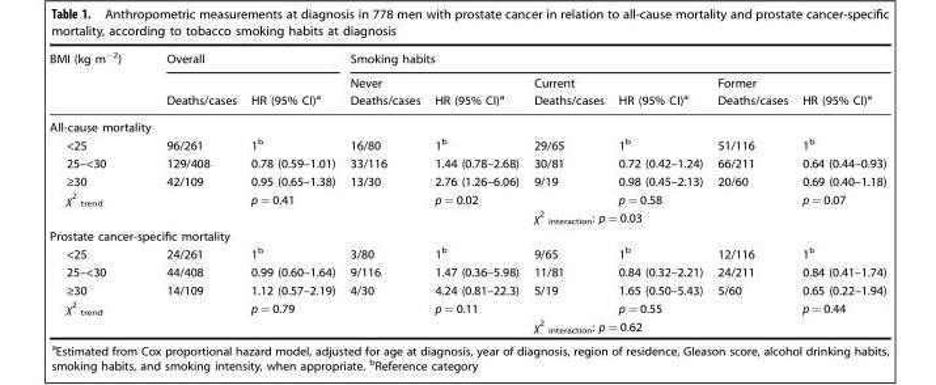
<table><thead><tr><td rowspan="3">BMI (kg m<sup>−2</sup>)</td><td colspan="2">Overall</td><td colspan="6">Smoking habits</td></tr><tr><td rowspan="2">Deaths/cases</td><td rowspan="2">HR (95% CI)<sup>a</sup></td><td rowspan="2">Never Deaths/cases</td><td rowspan="2">HR (95% CI)<sup>a</sup></td><td rowspan="2">Current Deaths/cases</td><td rowspan="2">HR (95% CI)<sup>a</sup></td><td rowspan="2">Former Deaths/cases</td><td rowspan="2">HR (95% CI)<sup>a</sup></td></tr><tr></tr></thead><tbody><tr><td colspan="9">All-cause mortality</td></tr><tr><td>&lt;25</td><td>96/261</td><td>1<sup>b</sup></td><td>16/80</td><td>1<sup>b</sup></td><td>29/65</td><td>1<sup>b</sup></td><td>51/116</td><td>1<sup>b</sup></td></tr><tr><td>25–&lt;30</td><td>129/408</td><td>0.78 (0.59–1.01)</td><td>33/116</td><td>1.44 (0.78–2.68)</td><td>30/81</td><td>0.72 (0.42–1.24)</td><td>66/211</td><td>0.64 (0.44–0.93)</td></tr><tr><td>≥30</td><td>42/109</td><td>0.95 (0.65–1.38)</td><td>13/30</td><td>2.76 (1.26–6.06)</td><td>9/19</td><td>0.98 (0.45–2.13)</td><td>20/60</td><td>0.69 (0.40–1.18)</td></tr><tr><td rowspan="2">χ<sup>2</sup> <sub>trend</sub></td><td rowspan="2"></td><td rowspan="2">p = 0.41</td><td rowspan="2"></td><td rowspan="2">p = 0.02</td><td></td><td>p = 0.58</td><td rowspan="2"></td><td rowspan="2">p = 0.07</td></tr><tr><td colspan="2">χ<sup>2</sup> <sub>interaction</sub>: p = 0.03</td></tr><tr><td colspan="9">Prostate cancer-specific mortality</td></tr><tr><td>&lt;25</td><td>24/261</td><td>1<sup>b</sup></td><td>3/80</td><td>1<sup>b</sup></td><td>9/65</td><td>1<sup>b</sup></td><td>12/116</td><td>1<sup>b</sup></td></tr><tr><td>25–&lt;30</td><td>44/408</td><td>0.99 (0.60–1.64)</td><td>9/116</td><td>1.47 (0.36–5.98)</td><td>11/81</td><td>0.84 (0.32–2.21)</td><td>24/211</td><td>0.84 (0.41–1.74)</td></tr><tr><td>≥30</td><td>14/109</td><td>1.12 (0.57–2.19)</td><td>4/30</td><td>4.24 (0.81–22.3)</td><td>5/19</td><td>1.65 (0.50–5.43)</td><td>5/60</td><td>0.65 (0.22–1.94)</td></tr><tr><td rowspan="2">χ<sup>2</sup> <sub>trend</sub></td><td rowspan="2"></td><td rowspan="2">p = 0.79</td><td rowspan="2"></td><td rowspan="2">p = 0.11</td><td></td><td>p = 0.55</td><td rowspan="2"></td><td rowspan="2">p = 0.44</td></tr><tr><td colspan="2">χ<sup>2</sup> <sub>interaction</sub>: p = 0.62</td></tr></tbody></table>